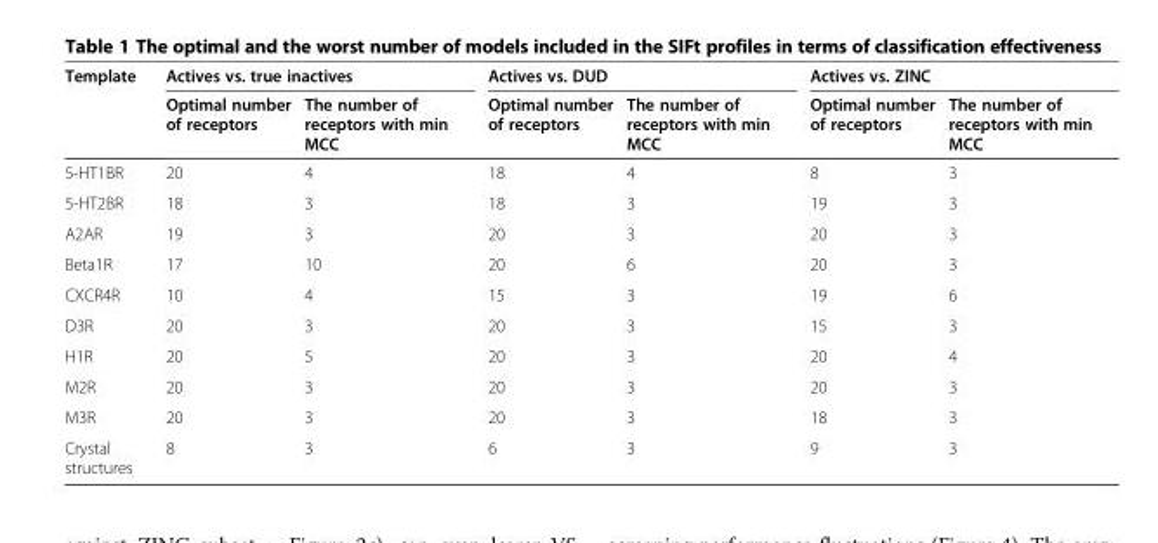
<table><thead><tr><td rowspan="2">Template</td><td colspan="2">Actives vs. true inactives</td><td colspan="2">Actives vs. DUD</td><td colspan="2">Actives vs. ZINC</td></tr><tr><td>Optimal number of receptors</td><td>The number of receptors with min MCC</td><td>Optimal number of receptors</td><td>The number of receptors with min MCC</td><td>Optimal number of receptors</td><td>The number of receptors with min MCC</td></tr></thead><tbody><tr><td>5-HT1BR</td><td>20</td><td>4</td><td>18</td><td>4</td><td>8</td><td>3</td></tr><tr><td>5-HT2BR</td><td>18</td><td>3</td><td>18</td><td>3</td><td>19</td><td>3</td></tr><tr><td>A2AR</td><td>19</td><td>3</td><td>20</td><td>3</td><td>20</td><td>3</td></tr><tr><td>Beta1R</td><td>17</td><td>10</td><td>20</td><td>6</td><td>20</td><td>3</td></tr><tr><td>CXCR4R</td><td>10</td><td>4</td><td>15</td><td>3</td><td>19</td><td>6</td></tr><tr><td>D3R</td><td>20</td><td>3</td><td>20</td><td>3</td><td>15</td><td>3</td></tr><tr><td>H1R</td><td>20</td><td>5</td><td>20</td><td>3</td><td>20</td><td>4</td></tr><tr><td>M2R</td><td>20</td><td>3</td><td>20</td><td>3</td><td>20</td><td>3</td></tr><tr><td>M3R</td><td>20</td><td>3</td><td>20</td><td>3</td><td>18</td><td>3</td></tr><tr><td>Crystal structures</td><td>8</td><td>3</td><td>6</td><td>3</td><td>9</td><td>3</td></tr></tbody></table>